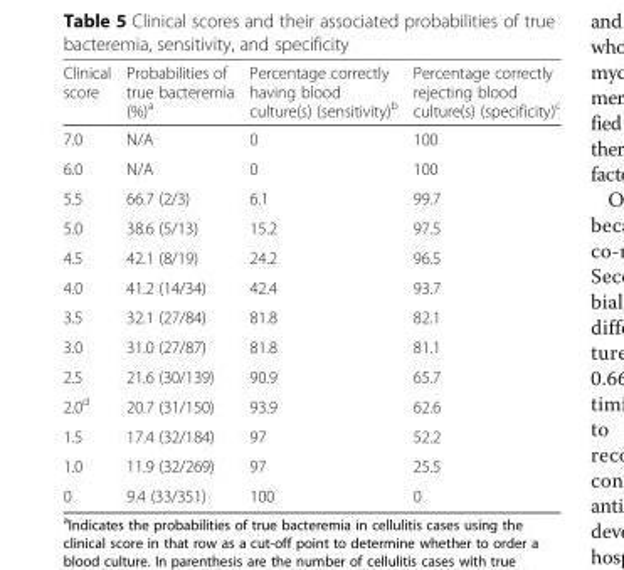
<table><thead><tr><td>Clinical score</td><td>Probabilities of true bacteremia (%)<sup>a</sup></td><td>Percentage correctly having blood culture(s) (sensitivity)<sup>b</sup></td><td>Percentage correctly rejecting blood culture(s) (specificity)<sup>c</sup></td></tr></thead><tbody><tr><td>7.0</td><td>N/A</td><td>0</td><td>100</td></tr><tr><td>6.0</td><td>N/A</td><td>0</td><td>100</td></tr><tr><td>5.5</td><td>66.7 (2/3)</td><td>6.1</td><td>99.7</td></tr><tr><td>5.0</td><td>38.6 (5/13)</td><td>15.2</td><td>97.5</td></tr><tr><td>4.5</td><td>42.1 (8/19)</td><td>24.2</td><td>96.5</td></tr><tr><td>4.0</td><td>41.2 (14/34)</td><td>42.4</td><td>93.7</td></tr><tr><td>3.5</td><td>32.1 (27/84)</td><td>81.8</td><td>82.1</td></tr><tr><td>3.0</td><td>31.0 (27/87)</td><td>81.8</td><td>81.1</td></tr><tr><td>2.5</td><td>21.6 (30/139)</td><td>90.9</td><td>65.7</td></tr><tr><td>2.0<sup>d</sup></td><td>20.7 (31/150)</td><td>93.9</td><td>62.6</td></tr><tr><td>1.5</td><td>17.4 (32/184)</td><td>97</td><td>52.2</td></tr><tr><td>1.0</td><td>11.9 (32/269)</td><td>97</td><td>25.5</td></tr><tr><td>0</td><td>9.4 (33/351)</td><td>100</td><td>0</td></tr></tbody></table>